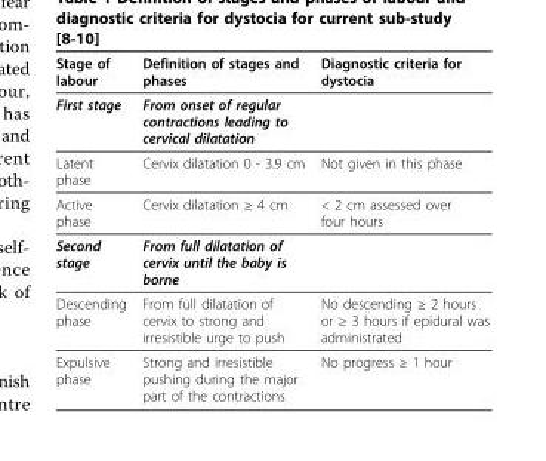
<table><thead><tr><td>Stage of labour</td><td>Definition of stages and phases</td><td>Diagnostic criteria for dystocia</td></tr></thead><tbody><tr><td>First stage</td><td>From onset of regular contractions leading to cervical dilatation</td><td></td></tr><tr><td>Latent phase</td><td>Cervix dilatation 0 - 3.9 cm</td><td>Not given in this phase</td></tr><tr><td>Active phase</td><td>Cervix dilatation ≥ 4 cm</td><td>&lt; 2 cm assessed over four hours</td></tr><tr><td>Second stage</td><td>From full dilatation of cervix until the baby is borne</td><td></td></tr><tr><td>Descending phase</td><td>From full dilatation of cervix to strong and irresistible urge to push</td><td>No descending ≥ 2 hours or ≥ 3 hours if epidural was administrated</td></tr><tr><td>Expulsive phase</td><td>Strong and irresistible pushing during the major part of the contractions</td><td>No progress ≥ 1 hour</td></tr></tbody></table>